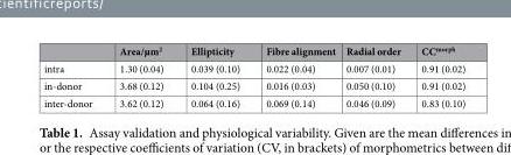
<table><thead><tr><td></td><td>Area/µm<sup>2</sup></td><td>Ellipticity</td><td>Fibre alignment</td><td>Radial order</td><td>CC<sup>morph</sup></td></tr></thead><tbody><tr><td>intra</td><td>1.30 (0.04)</td><td>0.039 (0.10)</td><td>0.022 (0.04)</td><td>0.007 (0.01)</td><td>0.91 (0.02)</td></tr><tr><td>in-donor</td><td>3.68 (0.12)</td><td>0.104 (0.25)</td><td>0.016 (0.03)</td><td>0.050 (0.10)</td><td>0.91 (0.02)</td></tr><tr><td>inter-donor</td><td>3.62 (0.12)</td><td>0.064 (0.16)</td><td>0.069 (0.14)</td><td>0.046 (0.09)</td><td>0.83 (0.10)</td></tr></tbody></table>